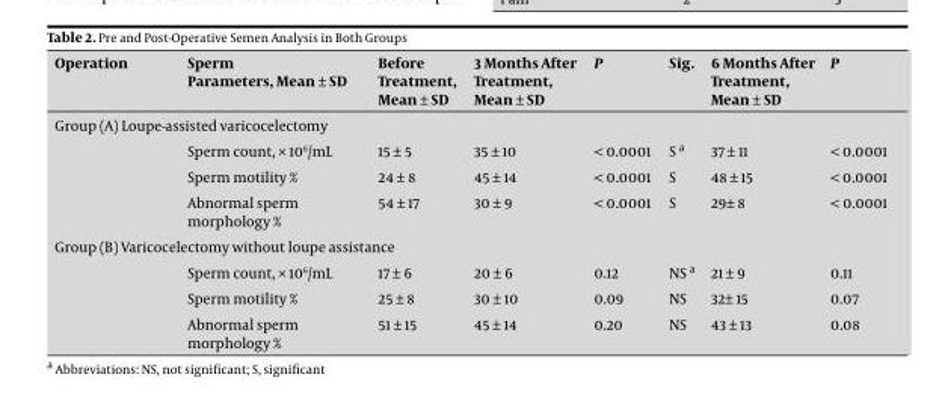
<table><thead><tr><td>Operation</td><td>Sperm Parameters, Mean ± SD</td><td>Before Treatment, Mean ± SD</td><td>3 Months After Treatment, Mean ± SD</td><td>P</td><td>Sig.</td><td>6 Months After Treatment, Mean ± SD</td><td>P</td></tr></thead><tbody><tr><td colspan="8">Group (A) loupe-assisted varicocelectomy</td></tr><tr><td></td><td>Sperm count, × 10<sup>6</sup>/ml</td><td>15 ± 5</td><td>35 ± 10</td><td>&lt; 0.0001</td><td>S a</td><td>37 ± 11</td><td>&lt; 0.0001</td></tr><tr><td></td><td>Sperm motility %</td><td>24 ± 8</td><td>45 ± 14</td><td>&lt; 0.0001</td><td>S</td><td>48 ± 15</td><td>&lt; 0.0001</td></tr><tr><td></td><td>Abnormal sperm morphology %</td><td>54 ± 17</td><td>30 ± 9</td><td>&lt; 0.0001</td><td>S</td><td>29± 8</td><td>&lt; 0.0001</td></tr><tr><td colspan="8">Group (B) Varicocelectomy without loupe assistance</td></tr><tr><td></td><td>Sperm count, × 10<sup>6</sup>/ml</td><td>17 ± 6</td><td>20 ± 6</td><td>0.12</td><td>NS a</td><td>21 ± 9</td><td>0.11</td></tr><tr><td></td><td>Sperm motility %</td><td>25 ± 8</td><td>30 ± 10</td><td>0.09</td><td>NS</td><td>32± 15</td><td>0.07</td></tr><tr><td></td><td>Abnormal sperm morphology %</td><td>51 ± 15</td><td>45 ± 14</td><td>0.20</td><td>NS</td><td>43 ± 13</td><td>0.08</td></tr></tbody></table>